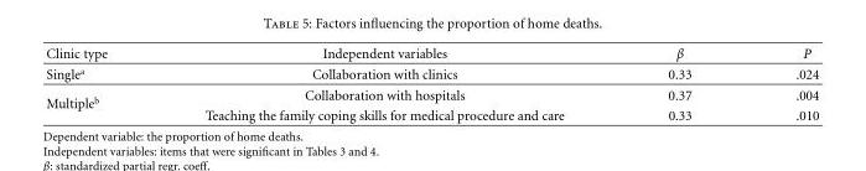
<table><thead><tr><td>Clinic type</td><td>Independent variables</td><td>β</td><td>P</td></tr></thead><tbody><tr><td>Single<sup>a</sup></td><td>Collaboration with clinics</td><td>0.33</td><td>.024</td></tr><tr><td rowspan="2">Multiple<sup>b</sup></td><td>Collaboration with hospitals</td><td>0.37</td><td>.004</td></tr><tr><td>Teaching the family coping skills for medical procedure and care</td><td>0.33</td><td>.010</td></tr></tbody></table>